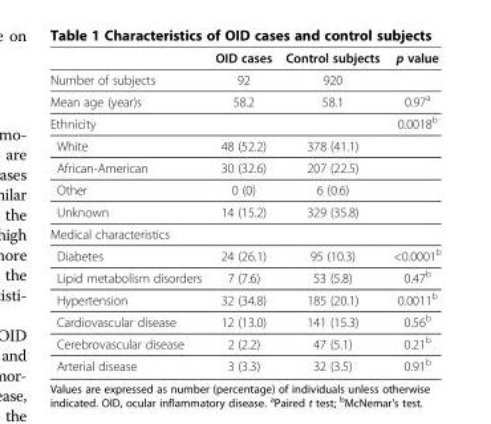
<table><thead><tr><td></td><td>OID cases</td><td>Control subjects</td><td>p value</td></tr></thead><tbody><tr><td>Number of subjects</td><td>92</td><td>920</td><td></td></tr><tr><td>Mean age (year)s</td><td>58.2</td><td>58.1</td><td>0.97<sup>a</sup></td></tr><tr><td>Ethnicity</td><td></td><td></td><td>0.0018<sup>b</sup></td></tr><tr><td>White</td><td>48 (52.2)</td><td>378 (41.1)</td><td></td></tr><tr><td>African-American</td><td>30 (32.6)</td><td>207 (22.5)</td><td></td></tr><tr><td>Other</td><td>0 (0)</td><td>6 (0.6)</td><td></td></tr><tr><td>Unknown</td><td>14 (15.2)</td><td>329 (35.8)</td><td></td></tr><tr><td colspan="4">Medical characteristics</td></tr><tr><td>Diabetes</td><td>24 (26.1)</td><td>95 (10.3)</td><td>&lt;0.0001<sup>b</sup></td></tr><tr><td>Lipid metabolism disorders</td><td>7 (7.6)</td><td>53 (5.8)</td><td>0.47<sup>b</sup></td></tr><tr><td>Hypertension</td><td>32 (34.8)</td><td>185 (20.1)</td><td>0.0011<sup>b</sup></td></tr><tr><td>Cardiovascular disease</td><td>12 (13.0)</td><td>141 (15.3)</td><td>0.56<sup>b</sup></td></tr><tr><td>Cerebrovascular disease</td><td>2 (2.2)</td><td>47 (5.1)</td><td>0.21<sup>b</sup></td></tr><tr><td>Arterial disease</td><td>3 (3.3)</td><td>32 (3.5)</td><td>0.91<sup>b</sup></td></tr></tbody></table>